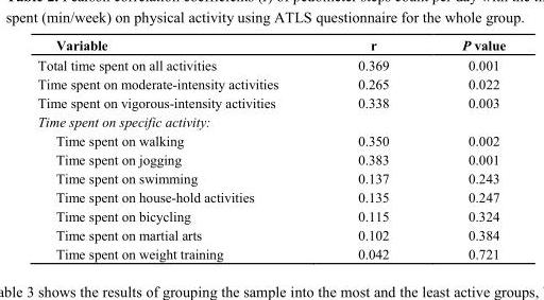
<table><thead><tr><td>Variable</td><td>r</td><td>P value</td></tr></thead><tbody><tr><td>Total time spent on all activities</td><td>0.369</td><td>0.001</td></tr><tr><td>Time spent on moderate-intensity activities</td><td>0.265</td><td>0.022</td></tr><tr><td>Time spent on vigorous-intensity activities</td><td>0.338</td><td>0.003</td></tr><tr><td colspan="3">Time spent on specific activity:</td></tr><tr><td>Time spent on walking</td><td>0.350</td><td>0.002</td></tr><tr><td>Time spent on jogging</td><td>0.383</td><td>0.001</td></tr><tr><td>Time spent on swimming</td><td>0.137</td><td>0.243</td></tr><tr><td>Time spent on house-hold activities</td><td>0.135</td><td>0.247</td></tr><tr><td>Time spent on bicycling</td><td>0.115</td><td>0.324</td></tr><tr><td>Time spent on martial arts</td><td>0.102</td><td>0.384</td></tr><tr><td>Time spent on weight training</td><td>0.042</td><td>0.721</td></tr></tbody></table>